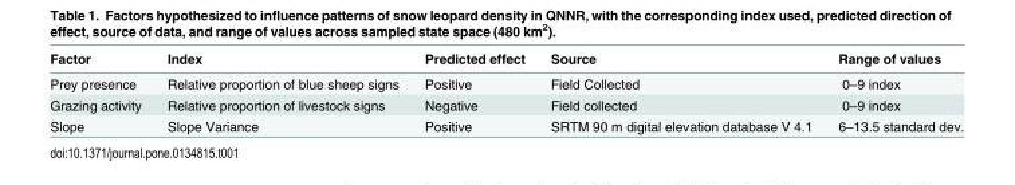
<table><thead><tr><td>Factor</td><td>Index</td><td>Predicted effect</td><td>Source</td><td>Range of values</td></tr></thead><tbody><tr><td>Prey presence</td><td>Relative proportion of blue sheep signs</td><td>Positive</td><td>Field Collected</td><td>0–9 index</td></tr><tr><td>Grazing activity</td><td>Relative proportion of livestock signs</td><td>Negative</td><td>Field collected</td><td>0–9 index</td></tr><tr><td>Slope</td><td>Slope Variance</td><td>Positive</td><td>SRTM 90 m digital elevation database V 4.1</td><td>6–13.5 standard dev.</td></tr></tbody></table>